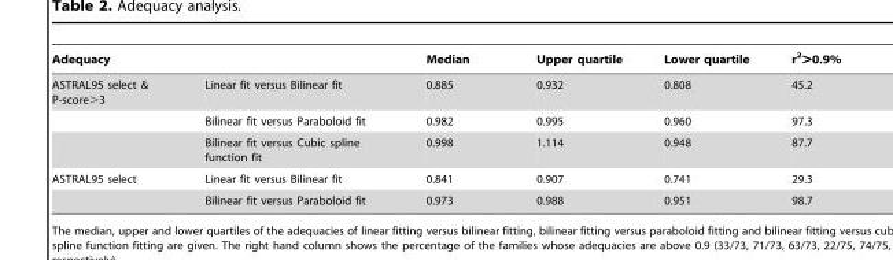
<table><thead><tr><td colspan="2">Adequacy</td><td rowspan="2">Median 0.885</td><td rowspan="2">Upper quartile 0.932</td><td rowspan="2">Lower quartile 0.808</td><td rowspan="2">r<sup>2</sup>&gt;0.9% 45.2</td></tr><tr><td>ASTRAL95 select &amp; P-score&gt;3</td><td>Linear fit versus Bilinear fit</td></tr></thead><tbody><tr><td></td><td>Bilinear fit versus Paraboloid fit</td><td>0.982</td><td>0.995</td><td>0.960</td><td>97.3</td></tr><tr><td></td><td>Bilinear fit versus Cubic spline function fit</td><td>0.998</td><td>1.114</td><td>0.948</td><td>87.7</td></tr><tr><td rowspan="2">ASTRAL95 select</td><td>Linear fit versus Bilinear fit</td><td>0.841</td><td>0.907</td><td>0.741</td><td>29.3</td></tr><tr><td>Bilinear fit versus Paraboloid fit</td><td>0.973</td><td>0.988</td><td>0.951</td><td>98.7</td></tr></tbody></table>